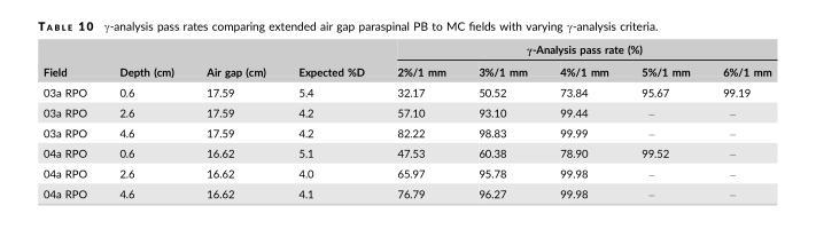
<table><thead><tr><td rowspan="2">Field</td><td rowspan="2">Depth (cm)</td><td rowspan="2">Air gap (cm)</td><td rowspan="2">Expected %D</td><td colspan="5">γ-Analysis pass rate (%)</td></tr><tr><td>2%/1 mm</td><td>3%/1 mm</td><td>4%/1 mm</td><td>5%/1 mm</td><td>6%/1 mm</td></tr></thead><tbody><tr><td>03a RPO</td><td>0.6</td><td>17.59</td><td>5.4</td><td>32.17</td><td>50.52</td><td>73.84</td><td>95.67</td><td>99.19</td></tr><tr><td>03a RPO</td><td>2.6</td><td>17.59</td><td>4.2</td><td>57.10</td><td>93.10</td><td>99.44</td><td>–</td><td>–</td></tr><tr><td>03a RPO</td><td>4.6</td><td>17.59</td><td>4.2</td><td>82.22</td><td>98.83</td><td>99.99</td><td>–</td><td>–</td></tr><tr><td>04a RPO</td><td>0.6</td><td>16.62</td><td>5.1</td><td>47.53</td><td>60.38</td><td>78.90</td><td>99.52</td><td>–</td></tr><tr><td>04a RPO</td><td>2.6</td><td>16.62</td><td>4.0</td><td>65.97</td><td>95.78</td><td>99.98</td><td>–</td><td>–</td></tr><tr><td>04a RPO</td><td>4.6</td><td>16.62</td><td>4.1</td><td>76.79</td><td>96.27</td><td>99.98</td><td>–</td><td>–</td></tr></tbody></table>